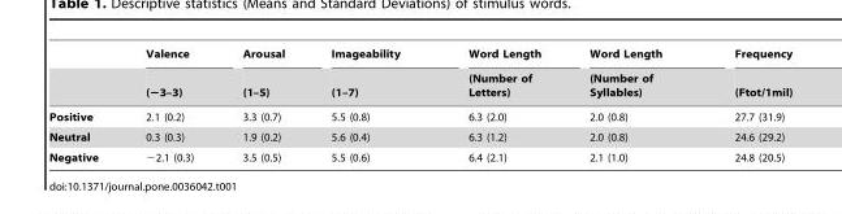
<table><thead><tr><td rowspan="2"></td><td rowspan="2">Valence (−3–3)</td><td rowspan="2">Arousal (1–5)</td><td rowspan="2">Imageability (1–7)</td><td rowspan="2">Word Length (Number of Letters)</td><td rowspan="2">Word Length (Number of Syllables)</td><td rowspan="2">Frequency (Ftot/1mil)</td></tr><tr></tr></thead><tbody><tr><td>Positive</td><td>2.1 (0.2)</td><td>3.3 (0.7)</td><td>5.5 (0.8)</td><td>6.3 (2.0)</td><td>2.0 (0.8)</td><td>27.7 (31.9)</td></tr><tr><td>Neutral</td><td>0.3 (0.3)</td><td>1.9 (0.2)</td><td>5.6 (0.4)</td><td>6.3 (1.2)</td><td>2.0 (0.8)</td><td>24.6 (29.2)</td></tr><tr><td>Negative</td><td>−2.1 (0.3)</td><td>3.5 (0.5)</td><td>5.5 (0.6)</td><td>6.4 (2.1)</td><td>2.1 (1.0)</td><td>24.8 (20.5)</td></tr></tbody></table>